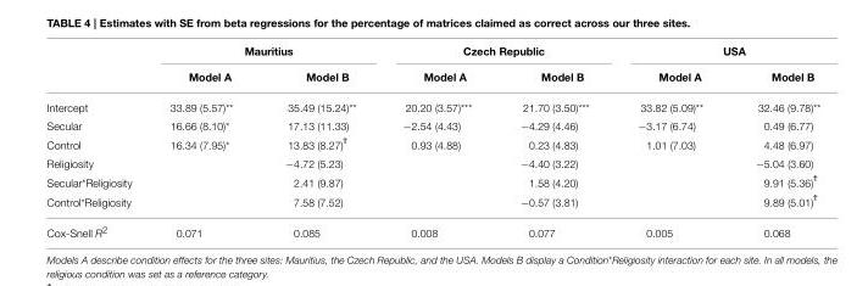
<table><thead><tr><td rowspan="2"></td><td colspan="2">Mauritius</td><td colspan="2">Czech Republic</td><td colspan="2">USA</td></tr><tr><td>Model A</td><td>Model B</td><td>Model A</td><td>Model B</td><td>Model A</td><td>Model B</td></tr></thead><tbody><tr><td>Intercept</td><td>33.89 (5.57)**</td><td>35.49 (15.24)**</td><td>20.20 (3.57)***</td><td>21.70 (3.50)***</td><td>33.82 (5.09)**</td><td>32.46 (9.78)**</td></tr><tr><td>Secular</td><td>16.66 (8.10)*</td><td>17.13 (11.33)</td><td>−2.54 (4.43)</td><td>−4.29 (4.46)</td><td>−3.17 (6.74)</td><td>0.49 (6.77)</td></tr><tr><td>Control</td><td>16.34 (7.95)*</td><td>13.83 (8.27)<sup>Ϯ</sup></td><td>0.93 (4.88)</td><td>0.23 (4.83)</td><td>1.01 (7.03)</td><td>4.48 (6.97)</td></tr><tr><td>Religiosity</td><td></td><td>−4.72 (5.23)</td><td></td><td>−4.40 (3.22)</td><td></td><td>−5.04 (3.60)</td></tr><tr><td>Secular*Religiosity</td><td></td><td>2.41 (9.87)</td><td></td><td>1.58 (4.20)</td><td></td><td>9.91 (5.36)<sup>Ϯ</sup></td></tr><tr><td>Control*Religiosity</td><td></td><td>7.58 (7.52)</td><td></td><td>−0.57 (3.81)</td><td></td><td>9.89 (5.01)<sup>Ϯ</sup></td></tr><tr><td>Cox-Snell R<sup>2</sup></td><td>0.071</td><td>0.085</td><td>0.008</td><td>0.077</td><td>0.005</td><td>0.068</td></tr></tbody></table>